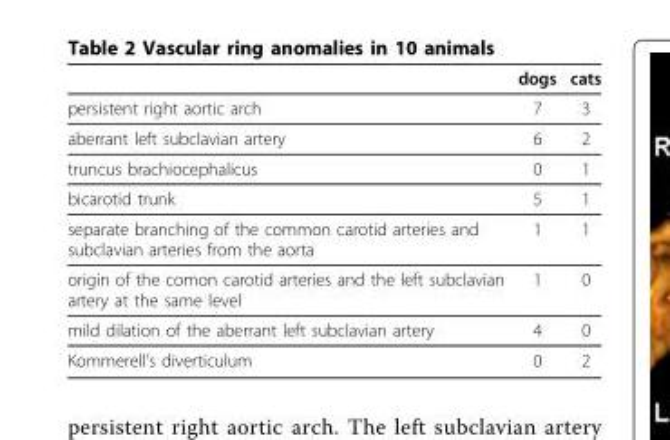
<table><thead><tr><td></td><td>dogs</td><td>cats</td></tr></thead><tbody><tr><td>persistent right aortic arch</td><td>7</td><td>3</td></tr><tr><td>aberrant left subclavian artery</td><td>6</td><td>2</td></tr><tr><td>truncus brachiocephalicus</td><td>0</td><td>1</td></tr><tr><td>bicarotid trunk</td><td>5</td><td>1</td></tr><tr><td>separate branching of the common carotid arteries and subclavian arteries from the aorta</td><td>1</td><td>1</td></tr><tr><td>origin of the comon carotid arteries and the left subclavian artery at the same level</td><td>1</td><td>0</td></tr><tr><td>mild dilation of the aberrant left subclavian artery</td><td>4</td><td>0</td></tr><tr><td>Kommerell’s diverticulum</td><td>0</td><td>2</td></tr></tbody></table>